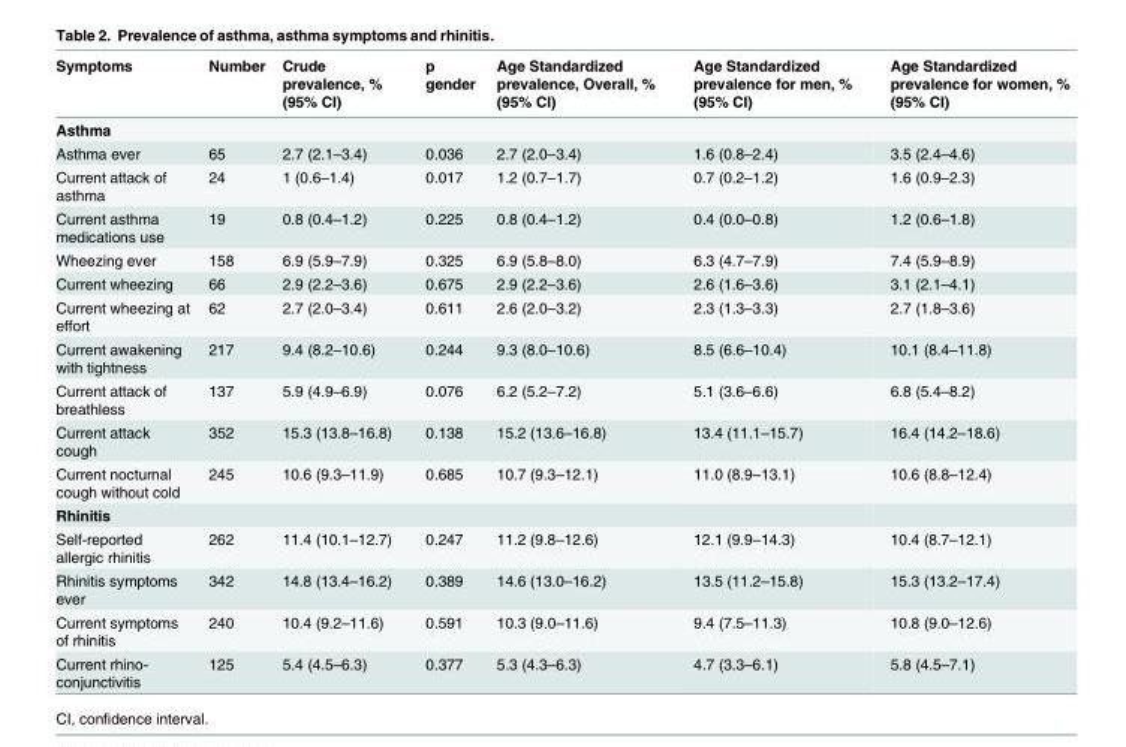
<table><thead><tr><td>Symptoms</td><td>Number</td><td>Crude prevalence, % (95% CI)</td><td>p gender</td><td>Age Standardized prevalence, Overall, % (95% CI)</td><td>Age Standardized prevalence for men, % (95% CI)</td><td>Age Standardized prevalence for women, % (95% CI)</td></tr></thead><tbody><tr><td colspan="7">Asthma</td></tr><tr><td>Asthma ever</td><td>65</td><td>2.7 (2.1–3.4)</td><td>0.036</td><td>2.7 (2.0–3.4)</td><td>1.6 (0.8–2.4)</td><td>3.5 (2.4–4.6)</td></tr><tr><td>Current attack of asthma</td><td>24</td><td>1 (0.6–1.4)</td><td>0.017</td><td>1.2 (0.7–1.7)</td><td>0.7 (0.2–1.2)</td><td>1.6 (0.9–2.3)</td></tr><tr><td>Current asthma medications use</td><td>19</td><td>0.8 (0.4–1.2)</td><td>0.225</td><td>0.8 (0.4–1.2)</td><td>0.4 (0.0–0.8)</td><td>1.2 (0.6–1.8)</td></tr><tr><td>Wheezing ever</td><td>158</td><td>6.9 (5.9–7.9)</td><td>0.325</td><td>6.9 (5.8–8.0)</td><td>6.3 (4.7–7.9)</td><td>7.4 (5.9–8.9)</td></tr><tr><td>Current wheezing</td><td>66</td><td>2.9 (2.2–3.6)</td><td>0.675</td><td>2.9 (2.2–3.6)</td><td>2.6 (1.6–3.6)</td><td>3.1 (2.1–4.1)</td></tr><tr><td>Current wheezing at effort</td><td>62</td><td>2.7 (2.0–3.4)</td><td>0.611</td><td>2.6 (2.0–3.2)</td><td>2.3 (1.3–3.3)</td><td>2.7 (1.8–3.6)</td></tr><tr><td>Current awakening with tightness</td><td>217</td><td>9.4 (8.2–10.6)</td><td>0.244</td><td>9.3 (8.0–10.6)</td><td>8.5 (6.6–10.4)</td><td>10.1 (8.4–11.8)</td></tr><tr><td>Current attack of breathless</td><td>137</td><td>5.9 (4.9–6.9)</td><td>0.076</td><td>6.2 (5.2–7.2)</td><td>5.1 (3.6–6.6)</td><td>6.8 (5.4–8.2)</td></tr><tr><td>Current attack cough</td><td>352</td><td>15.3 (13.8–16.8)</td><td>0.138</td><td>15.2 (13.6–16.8)</td><td>13.4 (11.1–15.7)</td><td>16.4 (14.2–18.6)</td></tr><tr><td>Current nocturnal cough without cold</td><td>245</td><td>10.6 (9.3–11.9)</td><td>0.685</td><td>10.7 (9.3–12.1)</td><td>11.0 (8.9–13.1)</td><td>10.6 (8.8–12.4)</td></tr><tr><td colspan="7">Rhinitis</td></tr><tr><td>Self-reported allergic rhinitis</td><td>262</td><td>11.4 (10.1–12.7)</td><td>0.247</td><td>11.2 (9.8–12.6)</td><td>12.1 (9.9–14.3)</td><td>10.4 (8.7–12.1)</td></tr><tr><td>Rhinitis symptoms ever</td><td>342</td><td>14.8 (13.4–16.2)</td><td>0.389</td><td>14.6 (13.0–16.2)</td><td>13.5 (11.2–15.8)</td><td>15.3 (13.2–17.4)</td></tr><tr><td>Current symptoms of rhinitis</td><td>240</td><td>10.4 (9.2–11.6)</td><td>0.591</td><td>10.3 (9.0–11.6)</td><td>9.4 (7.5–11.3)</td><td>10.8 (9.0–12.6)</td></tr><tr><td>Current rhino- conjunctivitis</td><td>125</td><td>5.4 (4.5–6.3)</td><td>0.377</td><td>5.3 (4.3–6.3)</td><td>4.7 (3.3–6.1)</td><td>5.8 (4.5–7.1)</td></tr></tbody></table>